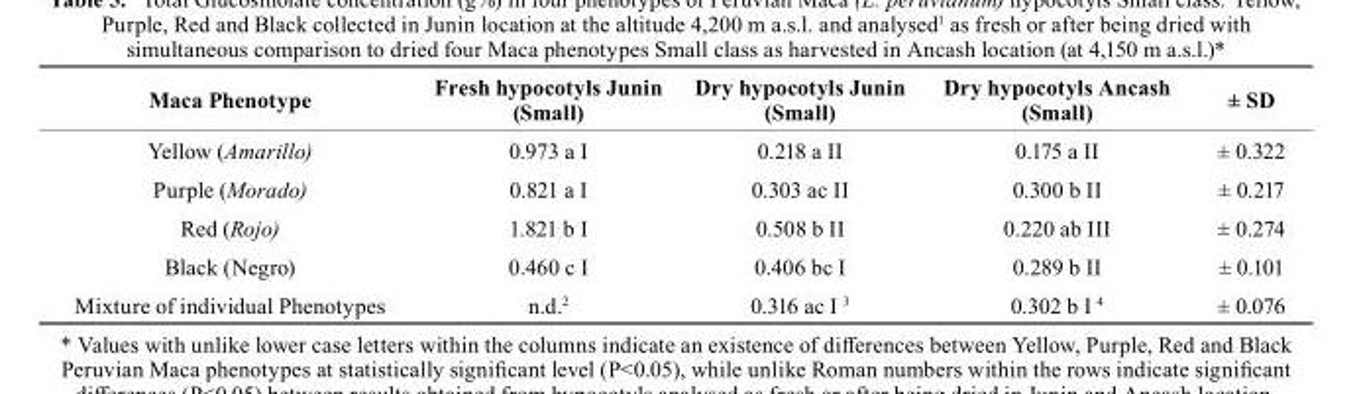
<table><thead><tr><td>Maca Phenotype</td><td>Fresh hypocotyls Junin (small)</td><td>Dry hypocotyls Junin (small)</td><td>Dry hypocotyls Ancash (small)</td><td>± sD</td></tr></thead><tbody><tr><td>Yellow (Amarillo)</td><td>0.973 a I</td><td>0.218 a II</td><td>0.175 a II</td><td>± 0.322</td></tr><tr><td>Purple (Morado)</td><td>0.821 a I</td><td>0.303 ac II</td><td>0.300 b II</td><td>± 0.217</td></tr><tr><td>Red (Rojo)</td><td>1.821 b I</td><td>0.508 b II</td><td>0.220 ab III</td><td>± 0.274</td></tr><tr><td>Black (Negro)</td><td>0.460 c I</td><td>0.406 bc I</td><td>0.289 b II</td><td>± 0.101</td></tr><tr><td>Mixture of individual Phenotypes</td><td>n.d.<sup>2</sup></td><td>0.316 ac I 3</td><td>0.302 b I 4</td><td>± 0.076</td></tr></tbody></table>